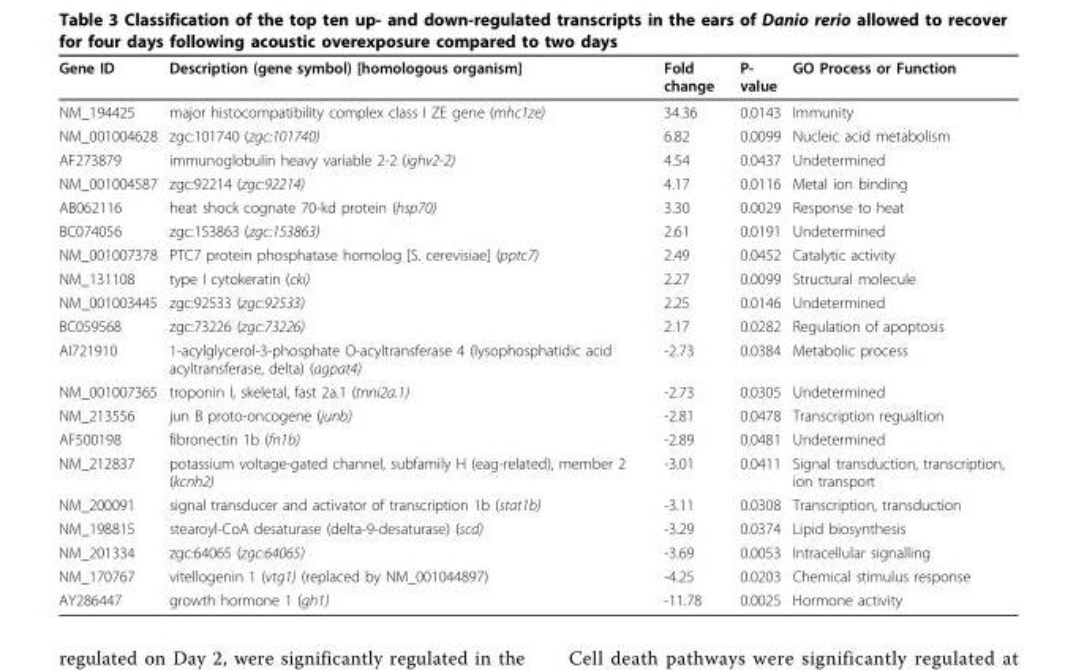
<table><thead><tr><td>Gene ID</td><td>Description (gene symbol) [homologous organism]</td><td>Fold change</td><td>P- value</td><td>GO Process or Function</td></tr></thead><tbody><tr><td>NM_194425</td><td>major histocompatibility complex class I ZE gene (mhc1ze)</td><td>34.36</td><td>0.0143</td><td>Immunity</td></tr><tr><td>NM_001004628</td><td>zgc:101740 (zgc:101740)</td><td>6.82</td><td>0.0099</td><td>Nucleic acid metabolism</td></tr><tr><td>AF273879</td><td>immunoglobulin heavy variable 2-2 (ighv2-2)</td><td>4.54</td><td>0.0437</td><td>Undetermined</td></tr><tr><td>NM_001004587</td><td>zgc:92214 (zgc:92214)</td><td>4.17</td><td>0.0116</td><td>Metal ion binding</td></tr><tr><td>AB062116</td><td>heat shock cognate 70-kd protein (hsp70)</td><td>3.30</td><td>0.0029</td><td>Response to heat</td></tr><tr><td>BC074056</td><td>zgc:153863 (zgc:153863)</td><td>2.61</td><td>0.0191</td><td>Undetermined</td></tr><tr><td>NM_001007378</td><td>PTC7 protein phosphatase homolog [S. cerevisiae] (pptc7)</td><td>2.49</td><td>0.0452</td><td>Catalytic activity</td></tr><tr><td>NM_131108</td><td>type I cytokeratin (cki)</td><td>2.27</td><td>0.0099</td><td>Structural molecule</td></tr><tr><td>NM_001003445</td><td>zgc:92533 (zgc:92533)</td><td>2.25</td><td>0.0146</td><td>Undetermined</td></tr><tr><td>BC059568</td><td>zgc:73226 (zgc:73226)</td><td>2.17</td><td>0.0282</td><td>Regulation of apoptosis</td></tr><tr><td>AI721910</td><td>1-acylglycerol-3-phosphate O-acyltransferase 4 (lysophosphatidic acid acyltransferase, delta) (agpat4)</td><td>-2.73</td><td>0.0384</td><td>Metabolic process</td></tr><tr><td>NM_001007365</td><td>troponin I, skeletal, fast 2a.1 (tnni2a.1)</td><td>-2.73</td><td>0.0305</td><td>Undetermined</td></tr><tr><td>NM_213556</td><td>jun B proto-oncogene (junb)</td><td>-2.81</td><td>0.0478</td><td>Transcription regualtion</td></tr><tr><td>AF500198</td><td>fibronectin 1b (fn1b)</td><td>-2.89</td><td>0.0481</td><td>Undetermined</td></tr><tr><td>NM_212837</td><td>potassium voltage-gated channel, subfamily H (eag-related), member 2 (kcnh2)</td><td>-3.01</td><td>0.0411</td><td>Signal transduction, transcription, ion transport</td></tr><tr><td>NM_200091</td><td>signal transducer and activator of transcription 1b (stat1b)</td><td>-3.11</td><td>0.0308</td><td>Transcription, transduction</td></tr><tr><td>NM_198815</td><td>stearoyl-CoA desaturase (delta-9-desaturase) (scd)</td><td>-3.29</td><td>0.0374</td><td>Lipid biosynthesis</td></tr><tr><td>NM_201334</td><td>zgc:64065 (zgc:64065)</td><td>-3.69</td><td>0.0053</td><td>Intracellular signalling</td></tr><tr><td>NM_170767</td><td>vitellogenin 1 (vtg1) (replaced by NM_001044897)</td><td>-4.25</td><td>0.0203</td><td>Chemical stimulus response</td></tr><tr><td>AY286447</td><td>growth hormone 1 (gh1)</td><td>-11.78</td><td>0.0025</td><td>Hormone activity</td></tr></tbody></table>